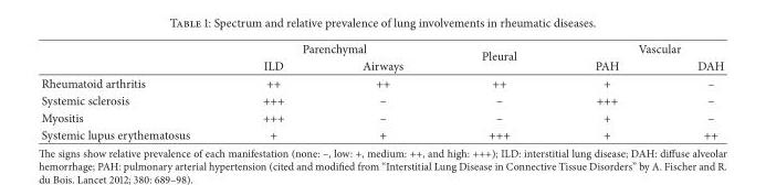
<table><thead><tr><td rowspan="2"></td><td colspan="2">Parenchymal</td><td rowspan="2">Pleural</td><td colspan="2">Vascular</td></tr><tr><td>ILD</td><td>Airways</td><td>PAH</td><td>DAH</td></tr></thead><tbody><tr><td>Rheumatoid arthritis</td><td>++</td><td>++</td><td>++</td><td>+</td><td>–</td></tr><tr><td>Systemic sclerosis</td><td>+++</td><td>–</td><td>–</td><td>+++</td><td>–</td></tr><tr><td>Myositis</td><td>+++</td><td>–</td><td>–</td><td>+</td><td>–</td></tr><tr><td>Systemic lupus erythematosus</td><td>+</td><td>+</td><td>+++</td><td>+</td><td>++</td></tr></tbody></table>